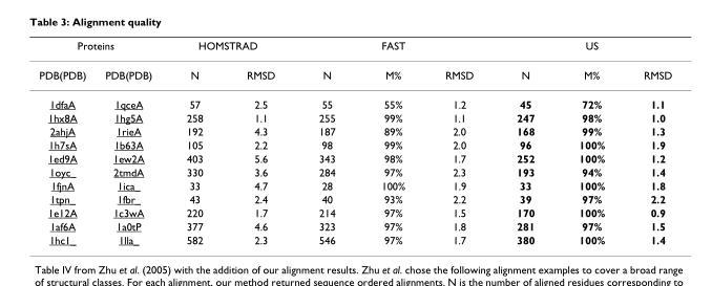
<table><thead><tr><td colspan="2">Proteins</td><td colspan="2">HOMSTRAD</td><td colspan="3">FAST</td><td colspan="3">US</td></tr><tr><td>PDB(PDB)</td><td>PDB(PDB)</td><td>N</td><td>RMSD</td><td>N</td><td>M%</td><td>RMSD</td><td>N</td><td>M%</td><td>RMSD</td></tr></thead><tbody><tr><td>1dfaA</td><td>1qceA</td><td>57</td><td>2.5</td><td>55</td><td>55%</td><td>1.2</td><td>45</td><td>72%</td><td>1.1</td></tr><tr><td>1hx8A</td><td>1hg5A</td><td>258</td><td>1.1</td><td>255</td><td>99%</td><td>1.1</td><td>247</td><td>98%</td><td>1.0</td></tr><tr><td>2ahjA</td><td>1rieA</td><td>192</td><td>4.3</td><td>187</td><td>89%</td><td>2.0</td><td>168</td><td>99%</td><td>1.3</td></tr><tr><td>1h7sA</td><td>1b63A</td><td>105</td><td>2.2</td><td>98</td><td>99%</td><td>2.0</td><td>96</td><td>100%</td><td>1.9</td></tr><tr><td>1ed9A</td><td>1ew2A</td><td>403</td><td>5.6</td><td>343</td><td>98%</td><td>1.7</td><td>252</td><td>100%</td><td>1.2</td></tr><tr><td>1oyc_</td><td>2tmdA</td><td>330</td><td>3.6</td><td>284</td><td>97%</td><td>2.3</td><td>193</td><td>94%</td><td>1.4</td></tr><tr><td>1fjnA</td><td>1ica_</td><td>33</td><td>4.7</td><td>28</td><td>100%</td><td>1.9</td><td>33</td><td>100%</td><td>1.8</td></tr><tr><td>1tpn_</td><td>1fbr_</td><td>43</td><td>2.4</td><td>40</td><td>93%</td><td>2.2</td><td>39</td><td>97%</td><td>2.2</td></tr><tr><td>1e12A</td><td>1c3wA</td><td>220</td><td>1.7</td><td>214</td><td>97%</td><td>1.5</td><td>170</td><td>100%</td><td>0.9</td></tr><tr><td>1af6A</td><td>1a0tP</td><td>377</td><td>4.6</td><td>323</td><td>97%</td><td>1.8</td><td>281</td><td>97%</td><td>1.5</td></tr><tr><td>1hc1_</td><td>1lla_</td><td>582</td><td>2.3</td><td>546</td><td>97%</td><td>1.7</td><td>380</td><td>100%</td><td>1.4</td></tr></tbody></table>